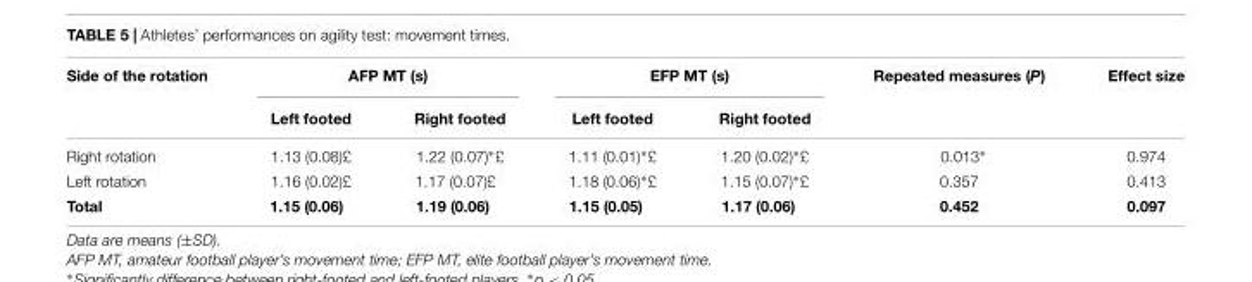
<table><thead><tr><td rowspan="2">Side of the rotation</td><td colspan="2">AFP MT (s)</td><td colspan="2">EFP MT (s)</td><td rowspan="2">Repeated measures (P)</td><td rowspan="2">Effect size</td></tr><tr><td>Left footed</td><td>Right footed</td><td>Left footed</td><td>Right footed</td></tr></thead><tbody><tr><td>Right rotation</td><td>1.13 (0.08)£</td><td>1.22 (0.07)∗£</td><td>1.11 (0.01)∗£</td><td>1.20 (0.02)∗£</td><td>0.013∗</td><td>0.974</td></tr><tr><td>Left rotation</td><td>1.16 (0.02)£</td><td>1.17 (0.07)£</td><td>1.18 (0.06)∗£</td><td>1.15 (0.07)∗£</td><td>0.357</td><td>0.413</td></tr><tr><td>Total</td><td>1.15 (0.06)</td><td>1.19 (0.06)</td><td>1.15 (0.05)</td><td>1.17 (0.06)</td><td>0.452</td><td>0.097</td></tr></tbody></table>